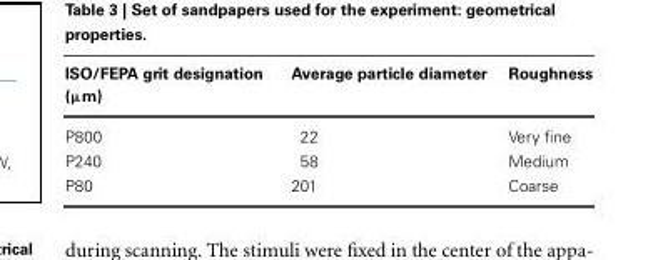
<table><thead><tr><td>ISO/FEPA grit designation (μm)</td><td>Average particle diameter</td><td>Roughness</td></tr></thead><tbody><tr><td>P800</td><td>22</td><td>Very fine</td></tr><tr><td>P240</td><td>58</td><td>Medium</td></tr><tr><td>P80</td><td>201</td><td>Coarse</td></tr></tbody></table>